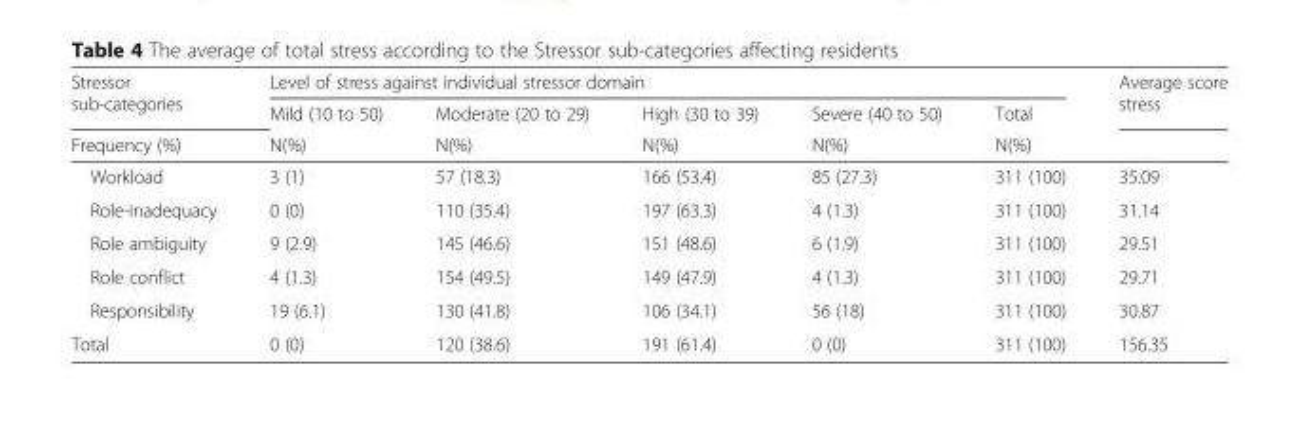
<table><thead><tr><td rowspan="3">Stressor sub-categories Frequency (%)</td><td colspan="5">Level of stress against individual stressor domain</td><td rowspan="3">Average score stress</td></tr><tr><td rowspan="2">Mild (10 to 50) N(%)</td><td rowspan="2">Moderate (20 to 29) N(%)</td><td rowspan="2">High (30 to 39) N(%)</td><td rowspan="2">Severe (40 to 50) N(%)</td><td rowspan="2">Total N(%)</td></tr><tr></tr></thead><tbody><tr><td>Workload</td><td>3 (1)</td><td>57 (18.3)</td><td>166 (53.4)</td><td>85 (27.3)</td><td>311 (100)</td><td>35.09</td></tr><tr><td>Role-inadequacy</td><td>0 (0)</td><td>110 (35.4)</td><td>197 (63.3)</td><td>4 (1.3)</td><td>311 (100)</td><td>31.14</td></tr><tr><td>Role ambiguity</td><td>9 (2.9)</td><td>145 (46.6)</td><td>151 (48.6)</td><td>6 (1.9)</td><td>311 (100)</td><td>29.51</td></tr><tr><td>Role conflict</td><td>4 (1.3)</td><td>154 (49.5)</td><td>149 (47.9)</td><td>4 (1.3)</td><td>311 (100)</td><td>29.71</td></tr><tr><td>Responsibility</td><td>19 (6.1)</td><td>130 (41.8)</td><td>106 (34.1)</td><td>56 (18)</td><td>311 (100)</td><td>30.87</td></tr><tr><td>Total</td><td>0 (0)</td><td>120 (38.6)</td><td>191 (61.4)</td><td>0 (0)</td><td>311 (100)</td><td>156.35</td></tr></tbody></table>